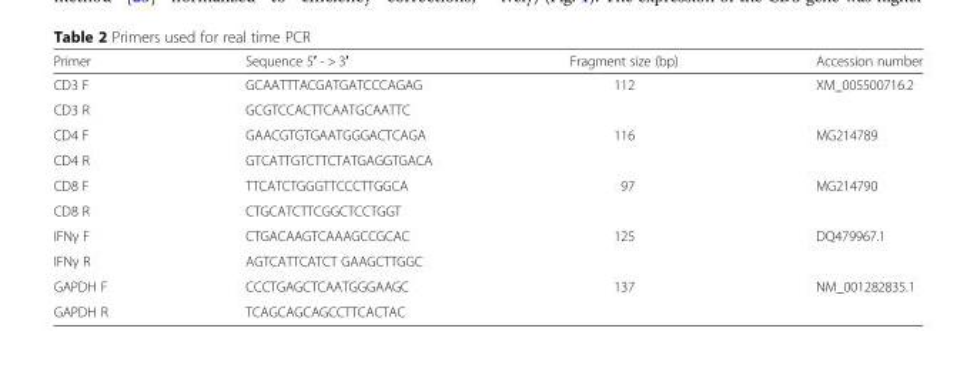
<table><thead><tr><td>Primer</td><td>Sequence 5′ - &gt; 3′</td><td>Fragment size (bp)</td><td>Accession number</td></tr></thead><tbody><tr><td>CD3 F</td><td>GCAATTTACGATGATCCCAGAG</td><td rowspan="2">112</td><td rowspan="2">XM_005500716.2</td></tr><tr><td>CD3 R</td><td>GCGTCCACTTCAATGCAATTC</td></tr><tr><td>CD4 F</td><td>GAACGTGTGAATGGGACTCAGA</td><td rowspan="2">116</td><td rowspan="2">MG214789</td></tr><tr><td>CD4 R</td><td>GTCATTGTCTTCTATGAGGTGACA</td></tr><tr><td>CD8 F</td><td>TTCATCTGGGTTCCCTTGGCA</td><td rowspan="2">97</td><td rowspan="2">MG214790</td></tr><tr><td>CD8 R</td><td>CTGCATCTTCGGCTCCTGGT</td></tr><tr><td>IFNγ F</td><td>CTGACAAGTCAAAGCCGCAC</td><td rowspan="2">125</td><td rowspan="2">DQ479967.1</td></tr><tr><td>IFNγ R</td><td>AGTCATTCATCT GAAGCTTGGC</td></tr><tr><td>GAPDH F</td><td>CCCTGAGCTCAATGGGAAGC</td><td rowspan="2">137</td><td rowspan="2">NM_001282835.1</td></tr><tr><td>GAPDH R</td><td>TCAGCAGCAGCCTTCACTAC</td></tr></tbody></table>